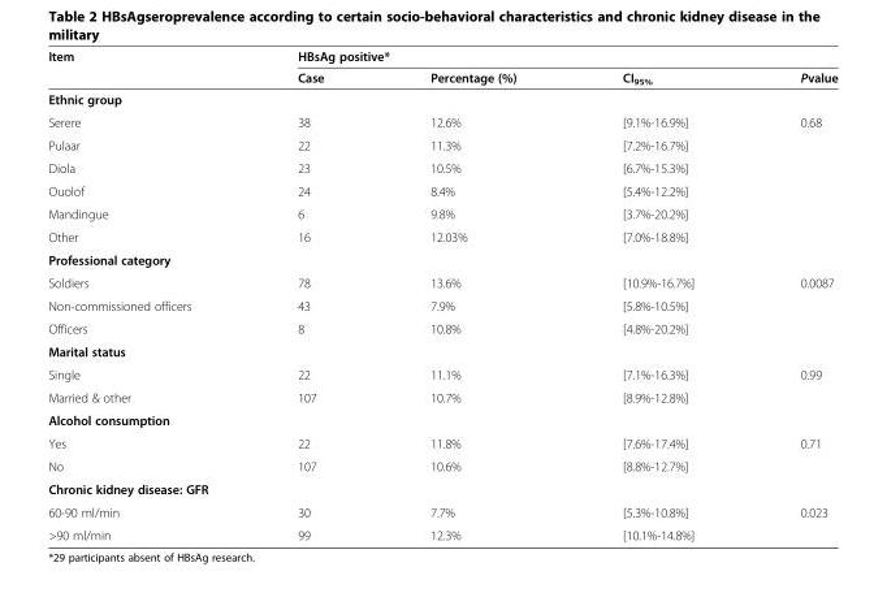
<table><thead><tr><td rowspan="2">Item</td><td colspan="4">HBsAg positive*</td></tr><tr><td>Case</td><td>Percentage (%)</td><td>CI<sub>95%</sub></td><td>Pvalue</td></tr></thead><tbody><tr><td colspan="5">Ethnic group</td></tr><tr><td>Serere</td><td>38</td><td>12.6%</td><td>[9.1%-16.9%]</td><td rowspan="6">0.68</td></tr><tr><td>Pulaar</td><td>22</td><td>11.3%</td><td>[7.2%-16.7%]</td></tr><tr><td>Diola</td><td>23</td><td>10.5%</td><td>[6.7%-15.3%]</td></tr><tr><td>Ouolof</td><td>24</td><td>8.4%</td><td>[5.4%-12.2%]</td></tr><tr><td>Mandingue</td><td>6</td><td>9.8%</td><td>[3.7%-20.2%]</td></tr><tr><td>Other</td><td>16</td><td>12.03%</td><td>[7.0%-18.8%]</td></tr><tr><td colspan="5">Professional category</td></tr><tr><td>Soldiers</td><td>78</td><td>13.6%</td><td>[10.9%-16.7%]</td><td rowspan="3">0.0087</td></tr><tr><td>Non-commissioned officers</td><td>43</td><td>7.9%</td><td>[5.8%-10.5%]</td></tr><tr><td>Officers</td><td>8</td><td>10.8%</td><td>[4.8%-20.2%]</td></tr><tr><td colspan="5">Marital status</td></tr><tr><td>Single</td><td>22</td><td>11.1%</td><td>[7.1%-16.3%]</td><td rowspan="2">0.99</td></tr><tr><td>Married &amp; other</td><td>107</td><td>10.7%</td><td>[8.9%-12.8%]</td></tr><tr><td colspan="5">Alcohol consumption</td></tr><tr><td>Yes</td><td>22</td><td>11.8%</td><td>[7.6%-17.4%]</td><td rowspan="2">0.71</td></tr><tr><td>No</td><td>107</td><td>10.6%</td><td>[8.8%-12.7%]</td></tr><tr><td colspan="5">Chronic kidney disease: GFR</td></tr><tr><td>60-90 ml/min</td><td>30</td><td>7.7%</td><td>[5.3%-10.8%]</td><td rowspan="2">0.023</td></tr><tr><td>&gt;90 ml/min</td><td>99</td><td>12.3%</td><td>[10.1%-14.8%]</td></tr></tbody></table>